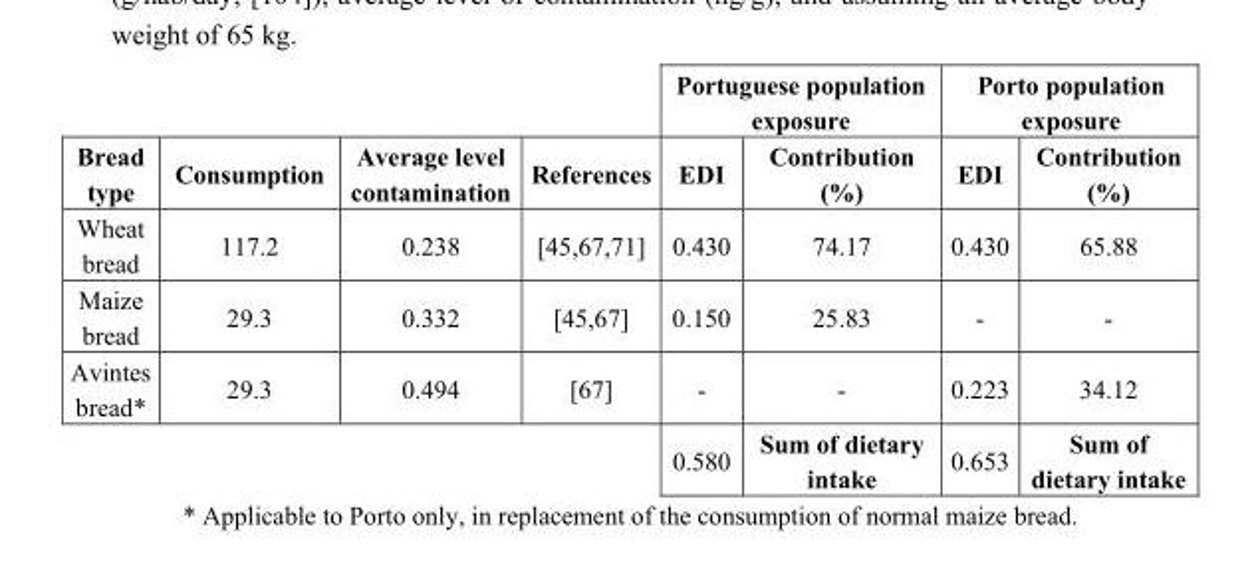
<table><thead><tr><td rowspan="2">Bread type</td><td rowspan="2">Consumption</td><td rowspan="2">Average level contamination</td><td rowspan="2">References</td><td colspan="2">Portuguese population exposure</td><td colspan="2">Porto population exposure</td></tr><tr><td>EDI</td><td>Contribution (%)</td><td>EDI</td><td>Contribution (%)</td></tr></thead><tbody><tr><td>Wheat bread</td><td>117.2</td><td>0.238</td><td>[45,67,71]</td><td>0.430</td><td>74.17</td><td>0.430</td><td>65.88</td></tr><tr><td>Maize bread</td><td>29.3</td><td>0.332</td><td>[45,67]</td><td>0.150</td><td>25.83</td><td>-</td><td>-</td></tr><tr><td rowspan="2">Avintes bread*</td><td>29.3</td><td>0.494</td><td>[67]</td><td>-</td><td>-</td><td>0.223</td><td>34.12</td></tr><tr><td></td><td></td><td></td><td>0.580</td><td>Sum of dietary intake</td><td>0.653</td><td>Sum of dietary intake</td></tr></tbody></table>